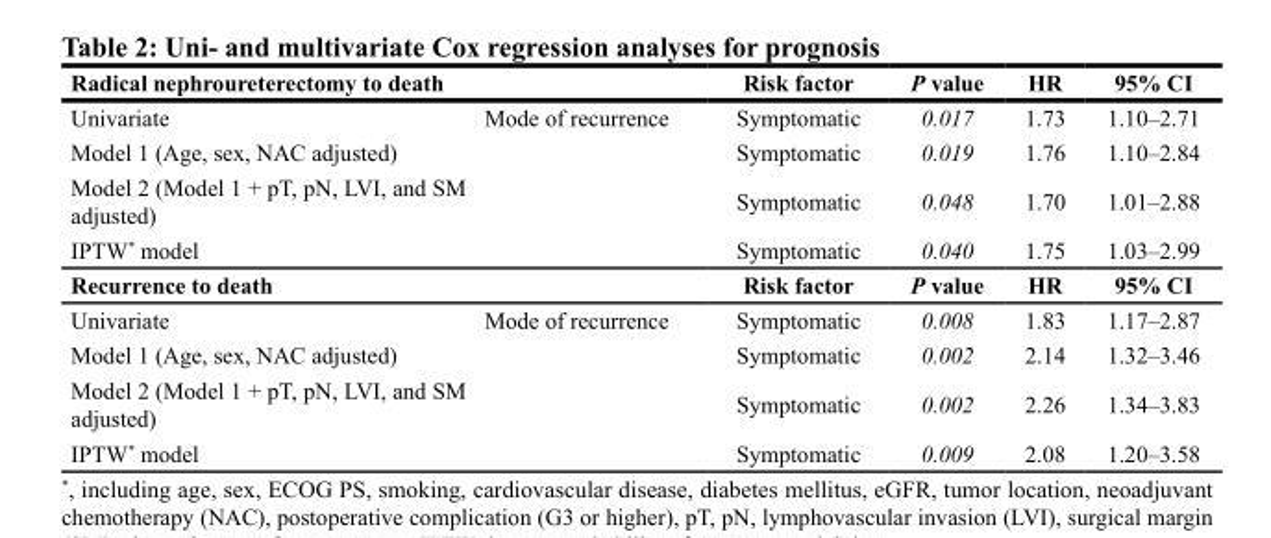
<table><thead><tr><td>Radical nephroureterectomy to death</td><td></td><td>Risk factor</td><td>P value</td><td>HR</td><td>95% CI</td></tr></thead><tbody><tr><td>Univariate</td><td>Mode of recurrence</td><td>Symptomatic</td><td>0.017</td><td>1.73</td><td>1.10–2.71</td></tr><tr><td>Model 1 (Age, sex, NAC adjusted)</td><td></td><td>Symptomatic</td><td>0.019</td><td>1.76</td><td>1.10–2.84</td></tr><tr><td>Model 2 (Model 1 + pT, pN, LVI, and SM adjusted)</td><td></td><td>Symptomatic</td><td>0.048</td><td>1.70</td><td>1.01–2.88</td></tr><tr><td>IPTW* model</td><td></td><td>Symptomatic</td><td>0.040</td><td>1.75</td><td>1.03–2.99</td></tr><tr><td>Recurrence to death</td><td></td><td>Risk factor</td><td>P value</td><td>HR</td><td>95% CI</td></tr><tr><td>Univariate</td><td>Mode of recurrence</td><td>Symptomatic</td><td>0.008</td><td>1.83</td><td>1.17–2.87</td></tr><tr><td>Model 1 (Age, sex, NAC adjusted)</td><td></td><td>Symptomatic</td><td>0.002</td><td>2.14</td><td>1.32–3.46</td></tr><tr><td>Model 2 (Model 1 + pT, pN, LVI, and SM adjusted)</td><td></td><td>Symptomatic</td><td>0.002</td><td>2.26</td><td>1.34–3.83</td></tr><tr><td>IPTW* model</td><td></td><td>Symptomatic</td><td>0.009</td><td>2.08</td><td>1.20–3.58</td></tr></tbody></table>